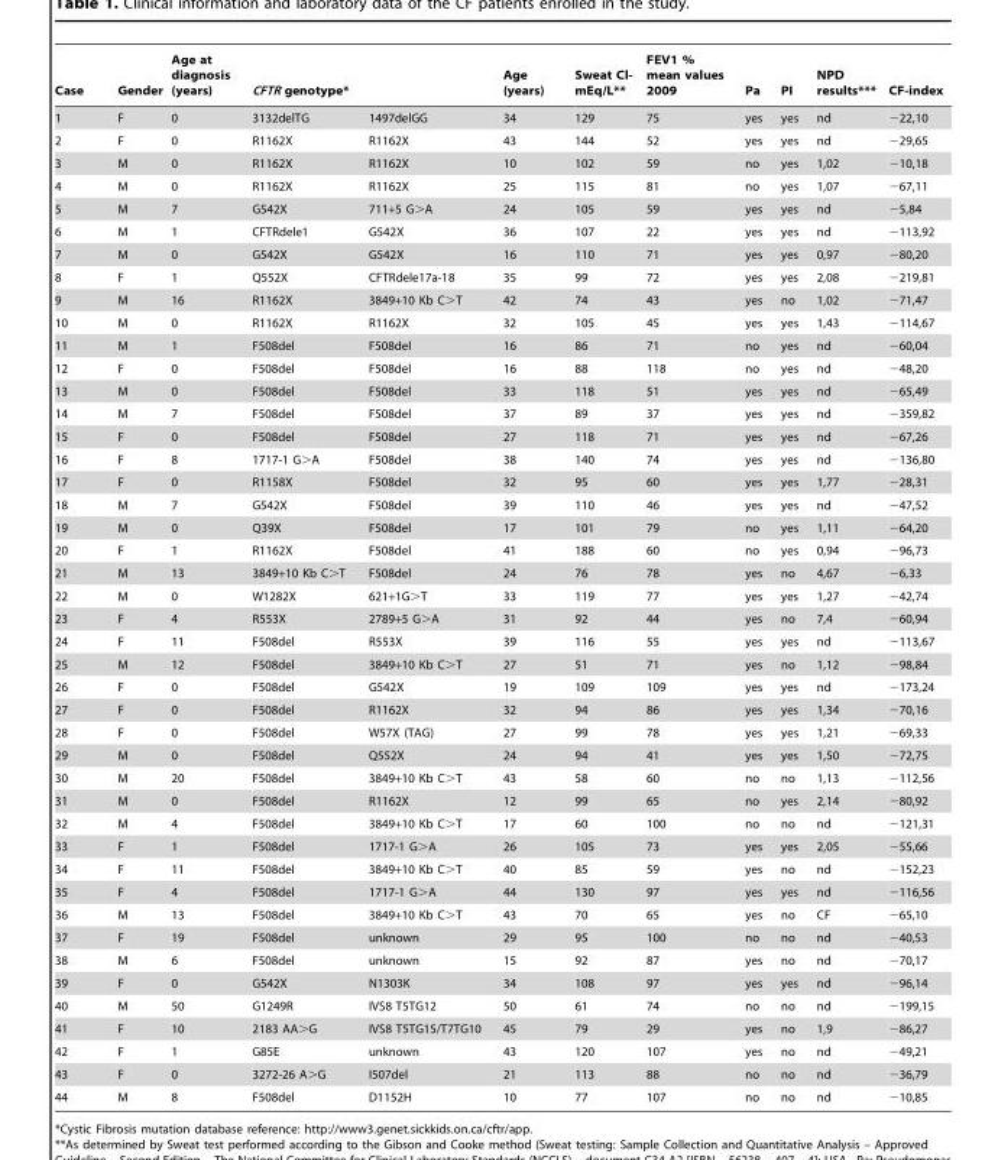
<table><thead><tr><td rowspan="2">Case 1</td><td rowspan="2">Gender F</td><td rowspan="2">Age at diagnosis (years) 0</td><td colspan="2">CFTR genotype*</td><td rowspan="2">Age (years) 34</td><td rowspan="2">Sweat Cl- mEq/L** 129</td><td rowspan="2">FEV1 % mean values 2009 75</td><td rowspan="2">Pa yes</td><td rowspan="2">PI yes</td><td rowspan="2">NPD results*** nd</td><td rowspan="2">CF-index −22,10</td></tr><tr><td>3132delTG</td><td>1497delGG</td></tr></thead><tbody><tr><td>2</td><td>F</td><td>0</td><td>R1162X</td><td>R1162X</td><td>43</td><td>144</td><td>52</td><td>yes</td><td>yes</td><td>nd</td><td>−29,65</td></tr><tr><td>3</td><td>M</td><td>0</td><td>R1162X</td><td>R1162X</td><td>10</td><td>102</td><td>59</td><td>no</td><td>yes</td><td>1,02</td><td>−10,18</td></tr><tr><td>4</td><td>M</td><td>0</td><td>R1162X</td><td>R1162X</td><td>25</td><td>115</td><td>81</td><td>no</td><td>yes</td><td>1,07</td><td>−67,11</td></tr><tr><td>5</td><td>M</td><td>7</td><td>G542X</td><td>711+5 G&gt;A</td><td>24</td><td>105</td><td>59</td><td>yes</td><td>yes</td><td>nd</td><td>−5,84</td></tr><tr><td>6</td><td>M</td><td>1</td><td>CFTRdele1</td><td>G542X</td><td>36</td><td>107</td><td>22</td><td>yes</td><td>yes</td><td>nd</td><td>−113,92</td></tr><tr><td>7</td><td>M</td><td>0</td><td>G542X</td><td>G542X</td><td>16</td><td>110</td><td>71</td><td>yes</td><td>yes</td><td>0,97</td><td>−80,20</td></tr><tr><td>8</td><td>F</td><td>1</td><td>Q552X</td><td>CFTRdele17a-18</td><td>35</td><td>99</td><td>72</td><td>yes</td><td>yes</td><td>2,08</td><td>−219,81</td></tr><tr><td>9</td><td>M</td><td>16</td><td>R1162X</td><td>3849+10 Kb C&gt;T</td><td>42</td><td>74</td><td>43</td><td>yes</td><td>no</td><td>1,02</td><td>−71,47</td></tr><tr><td>10</td><td>M</td><td>0</td><td>R1162X</td><td>R1162X</td><td>32</td><td>105</td><td>45</td><td>yes</td><td>yes</td><td>1,43</td><td>−114,67</td></tr><tr><td>11</td><td>M</td><td>1</td><td>F508del</td><td>F508del</td><td>16</td><td>86</td><td>71</td><td>no</td><td>yes</td><td>nd</td><td>−60,04</td></tr><tr><td>12</td><td>F</td><td>0</td><td>F508del</td><td>F508del</td><td>16</td><td>88</td><td>118</td><td>no</td><td>yes</td><td>nd</td><td>−48,20</td></tr><tr><td>13</td><td>M</td><td>0</td><td>F508del</td><td>F508del</td><td>33</td><td>118</td><td>51</td><td>yes</td><td>yes</td><td>nd</td><td>−65,49</td></tr><tr><td>14</td><td>M</td><td>7</td><td>F508del</td><td>F508del</td><td>37</td><td>89</td><td>37</td><td>yes</td><td>yes</td><td>nd</td><td>−359,82</td></tr><tr><td>15</td><td>F</td><td>0</td><td>F508del</td><td>F508del</td><td>27</td><td>118</td><td>71</td><td>yes</td><td>yes</td><td>nd</td><td>−67,26</td></tr><tr><td>16</td><td>F</td><td>8</td><td>1717-1 G&gt;A</td><td>F508del</td><td>38</td><td>140</td><td>74</td><td>yes</td><td>yes</td><td>nd</td><td>−136,80</td></tr><tr><td>17</td><td>F</td><td>0</td><td>R1158X</td><td>F508del</td><td>32</td><td>95</td><td>60</td><td>yes</td><td>yes</td><td>1,77</td><td>−28,31</td></tr><tr><td>18</td><td>M</td><td>7</td><td>G542X</td><td>F508del</td><td>39</td><td>110</td><td>46</td><td>yes</td><td>yes</td><td>nd</td><td>−47,52</td></tr><tr><td>19</td><td>M</td><td>0</td><td>Q39X</td><td>F508del</td><td>17</td><td>101</td><td>79</td><td>no</td><td>yes</td><td>1,11</td><td>−64,20</td></tr><tr><td>20</td><td>F</td><td>1</td><td>R1162X</td><td>F508del</td><td>41</td><td>188</td><td>60</td><td>no</td><td>yes</td><td>0,94</td><td>−96,73</td></tr><tr><td>21</td><td>M</td><td>13</td><td>3849+10 Kb C&gt;T</td><td>F508del</td><td>24</td><td>76</td><td>78</td><td>yes</td><td>no</td><td>4,67</td><td>−6,33</td></tr><tr><td>22</td><td>M</td><td>0</td><td>W1282X</td><td>621+1G&gt;T</td><td>33</td><td>119</td><td>77</td><td>yes</td><td>yes</td><td>1,27</td><td>−42,74</td></tr><tr><td>23</td><td>F</td><td>4</td><td>R553X</td><td>2789+5 G&gt;A</td><td>31</td><td>92</td><td>44</td><td>yes</td><td>no</td><td>7,4</td><td>−60,94</td></tr><tr><td>24</td><td>F</td><td>11</td><td>F508del</td><td>R553X</td><td>39</td><td>116</td><td>55</td><td>yes</td><td>yes</td><td>nd</td><td>−113,67</td></tr><tr><td>25</td><td>M</td><td>12</td><td>F508del</td><td>3849+10 Kb C&gt;T</td><td>27</td><td>51</td><td>71</td><td>yes</td><td>no</td><td>1,12</td><td>−98,84</td></tr><tr><td>26</td><td>F</td><td>0</td><td>F508del</td><td>G542X</td><td>19</td><td>109</td><td>109</td><td>yes</td><td>yes</td><td>nd</td><td>−173,24</td></tr><tr><td>27</td><td>F</td><td>0</td><td>F508del</td><td>R1162X</td><td>32</td><td>94</td><td>86</td><td>yes</td><td>yes</td><td>1,34</td><td>−70,16</td></tr><tr><td>28</td><td>F</td><td>0</td><td>F508del</td><td>W57X (TAG)</td><td>27</td><td>99</td><td>78</td><td>yes</td><td>yes</td><td>1,21</td><td>−69,33</td></tr><tr><td>29</td><td>M</td><td>0</td><td>F508del</td><td>Q552X</td><td>24</td><td>94</td><td>41</td><td>yes</td><td>yes</td><td>1,50</td><td>−72,75</td></tr><tr><td>30</td><td>M</td><td>20</td><td>F508del</td><td>3849+10 Kb C&gt;T</td><td>43</td><td>58</td><td>60</td><td>no</td><td>no</td><td>1,13</td><td>−112,56</td></tr><tr><td>31</td><td>M</td><td>0</td><td>F508del</td><td>R1162X</td><td>12</td><td>99</td><td>65</td><td>no</td><td>yes</td><td>2,14</td><td>−80,92</td></tr><tr><td>32</td><td>M</td><td>4</td><td>F508del</td><td>3849+10 Kb C&gt;T</td><td>17</td><td>60</td><td>100</td><td>no</td><td>no</td><td>nd</td><td>−121,31</td></tr><tr><td>33</td><td>F</td><td>1</td><td>F508del</td><td>1717-1 G&gt;A</td><td>26</td><td>105</td><td>73</td><td>yes</td><td>yes</td><td>2,05</td><td>−55,66</td></tr><tr><td>34</td><td>F</td><td>11</td><td>F508del</td><td>3849+10 Kb C&gt;T</td><td>40</td><td>85</td><td>59</td><td>yes</td><td>no</td><td>nd</td><td>−152,23</td></tr><tr><td>35</td><td>F</td><td>4</td><td>F508del</td><td>1717-1 G&gt;A</td><td>44</td><td>130</td><td>97</td><td>yes</td><td>yes</td><td>nd</td><td>−116,56</td></tr><tr><td>36</td><td>M</td><td>13</td><td>F508del</td><td>3849+10 Kb C&gt;T</td><td>43</td><td>70</td><td>65</td><td>yes</td><td>no</td><td>CF</td><td>−65,10</td></tr><tr><td>37</td><td>F</td><td>19</td><td>F508del</td><td>unknown</td><td>29</td><td>95</td><td>100</td><td>no</td><td>no</td><td>nd</td><td>−40,53</td></tr><tr><td>38</td><td>M</td><td>6</td><td>F508del</td><td>unknown</td><td>15</td><td>92</td><td>87</td><td>yes</td><td>no</td><td>nd</td><td>−70,17</td></tr><tr><td>39</td><td>F</td><td>0</td><td>G542X</td><td>N1303K</td><td>34</td><td>108</td><td>97</td><td>yes</td><td>yes</td><td>nd</td><td>−96,14</td></tr><tr><td>40</td><td>M</td><td>50</td><td>G1249R</td><td>IVS8 T5TG12</td><td>50</td><td>61</td><td>74</td><td>no</td><td>no</td><td>nd</td><td>−199,15</td></tr><tr><td>41</td><td>F</td><td>10</td><td>2183 AA&gt;G</td><td>IVS8 T5TG15/T7TG10</td><td>45</td><td>79</td><td>29</td><td>yes</td><td>no</td><td>1,9</td><td>−86,27</td></tr><tr><td>42</td><td>F</td><td>1</td><td>G85E</td><td>unknown</td><td>43</td><td>120</td><td>107</td><td>yes</td><td>no</td><td>nd</td><td>−49,21</td></tr><tr><td>43</td><td>F</td><td>0</td><td>3272-26 A&gt;G</td><td>I507del</td><td>21</td><td>113</td><td>88</td><td>no</td><td>no</td><td>nd</td><td>−36,79</td></tr><tr><td>44</td><td>M</td><td>8</td><td>F508del</td><td>D1152H</td><td>10</td><td>77</td><td>107</td><td>no</td><td>no</td><td>nd</td><td>−10,85</td></tr></tbody></table>